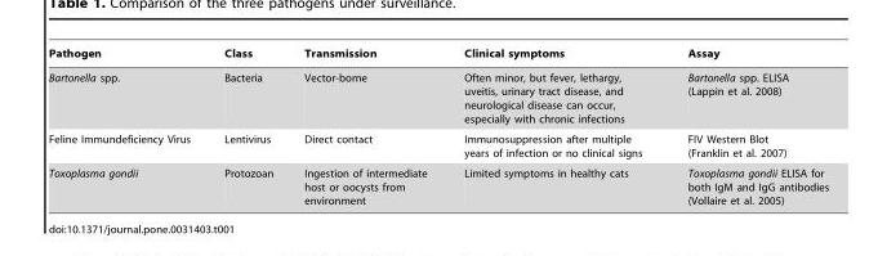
<table><thead><tr><td>Pathogen</td><td>Class</td><td>Transmission</td><td>Clinical symptoms</td><td>Assay</td></tr></thead><tbody><tr><td>Bartonella spp.</td><td>Bacteria</td><td>Vector-borne</td><td>Often minor, but fever, lethargy, uveitis, urinary tract disease, and neurological disease can occur, especially with chronic infections</td><td>Bartonella spp. ELISA (Lappin et al. 2008)</td></tr><tr><td>Feline Immundeficiency Virus</td><td>Lentivirus</td><td>Direct contact</td><td>Immunosuppression after multiple years of infection or no clinical signs</td><td>FIV Western Blot (Franklin et al. 2007)</td></tr><tr><td>Toxoplasma gondii</td><td>Protozoan</td><td>Ingestion of intermediate host or oocysts from environment</td><td>Limited symptoms in healthy cats</td><td>Toxoplasma gondii ELISA for both IgM and IgG antibodies (Vollaire et al. 2005)</td></tr></tbody></table>